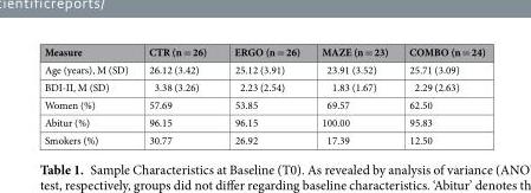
<table><thead><tr><td>Measure</td><td>CTR (n = 26)</td><td>ERGO (n = 26)</td><td>MAZE (n = 23)</td><td>COMBO (n = 24)</td></tr></thead><tbody><tr><td>Age (years), M (SD)</td><td>26.12 (3.42)</td><td>25.12 (3.91)</td><td>23.91 (3.52)</td><td>25.71 (3.09)</td></tr><tr><td>BDI-II, M (SD)</td><td>3.38 (3.26)</td><td>2.23 (2.54)</td><td>1.83 (1.67)</td><td>2.29 (2.63)</td></tr><tr><td>Women (%)</td><td>57.69</td><td>53.85</td><td>69.57</td><td>62.50</td></tr><tr><td>Abitur (%)</td><td>96.15</td><td>96.15</td><td>100.00</td><td>95.83</td></tr><tr><td>Smokers (%)</td><td>30.77</td><td>26.92</td><td>17.39</td><td>12.50</td></tr></tbody></table>